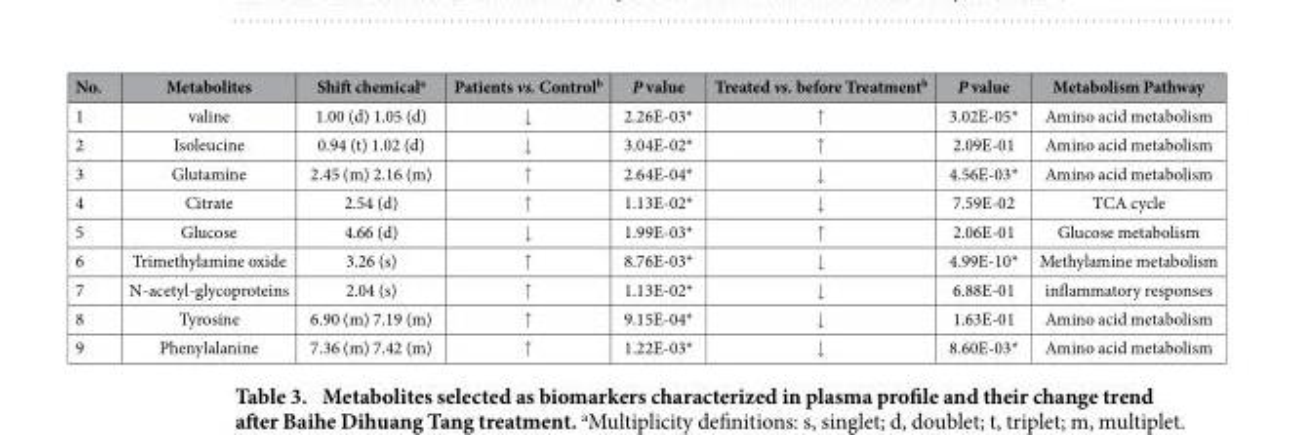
<table><thead><tr><td>No.</td><td>Metabolites</td><td>Shift chemical<sup>a</sup></td><td>Patients vs. Control<sup>b</sup></td><td>P value</td><td>Treated vs. before Treatment<sup>b</sup></td><td>P value</td><td>Metabolism Pathway</td></tr></thead><tbody><tr><td>1</td><td>valine</td><td>1.00 (d) 1.05 (d)</td><td>↓</td><td>2.26E-03*</td><td>↑</td><td>3.02E-05*</td><td>Amino acid metabolism</td></tr><tr><td>2</td><td>Isoleucine</td><td>0.94 (t) 1.02 (d)</td><td>↓</td><td>3.04E-02*</td><td>↑</td><td>2.09E-01</td><td>Amino acid metabolism</td></tr><tr><td>3</td><td>Glutamine</td><td>2.45 (m) 2.16 (m)</td><td>↑</td><td>2.64E-04*</td><td>↓</td><td>4.56E-03*</td><td>Amino acid metabolism</td></tr><tr><td>4</td><td>Citrate</td><td>2.54 (d)</td><td>↑</td><td>1.13E-02*</td><td>↓</td><td>7.59E-02</td><td>TCA cycle</td></tr><tr><td>5</td><td>Glucose</td><td>4.66 (d)</td><td>↓</td><td>1.99E-03*</td><td>↑</td><td>2.06E-01</td><td>Glucose metabolism</td></tr><tr><td>6</td><td>Trimethylamine oxide</td><td>3.26 (s)</td><td>↑</td><td>8.76E-03*</td><td>↓</td><td>4.99E-10*</td><td>Methylamine metabolism</td></tr><tr><td>7</td><td>N-acetyl-glycoproteins</td><td>2.04 (s)</td><td>↑</td><td>1.13E-02*</td><td>↓</td><td>6.88E-01</td><td>inflammatory responses</td></tr><tr><td>8</td><td>Tyrosine</td><td>6.90 (m) 7.19 (m)</td><td>↑</td><td>9.15E-04*</td><td>↓</td><td>1.63E-01</td><td>Amino acid metabolism</td></tr><tr><td>9</td><td>Phenylalanine</td><td>7.36 (m) 7.42 (m)</td><td>↑</td><td>1.22E-03*</td><td>↓</td><td>8.60E-03*</td><td>Amino acid metabolism</td></tr></tbody></table>